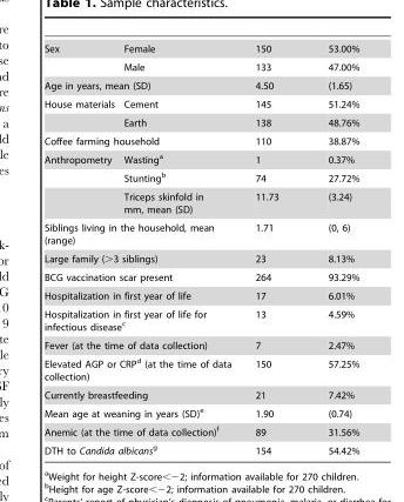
<table><tbody><tr><td rowspan="2">Sex</td><td>Female</td><td>150</td><td>53.00%</td></tr><tr><td>Male</td><td>133</td><td>47.00%</td></tr><tr><td colspan="2">Age in years, mean (SD)</td><td>4.50</td><td>(1.65)</td></tr><tr><td rowspan="2">House materials</td><td>Cement</td><td>145</td><td>51.24%</td></tr><tr><td>Earth</td><td>138</td><td>48.76%</td></tr><tr><td colspan="2">Coffee farming household</td><td>110</td><td>38.87%</td></tr><tr><td rowspan="3">Anthropometry</td><td>Wasting<sup>a</sup></td><td>1</td><td>0.37%</td></tr><tr><td>Stunting<sup>b</sup></td><td>74</td><td>27.72%</td></tr><tr><td>Triceps skinfold in mm, mean (SD)</td><td>11.73</td><td>(3.24)</td></tr><tr><td colspan="2">Siblings living in the household, mean (range)</td><td>1.71</td><td>(0, 6)</td></tr><tr><td colspan="2">Large family (&gt;3 siblings)</td><td>23</td><td>8.13%</td></tr><tr><td colspan="2">BCG vaccination scar present</td><td>264</td><td>93.29%</td></tr><tr><td colspan="2">Hospitalization in first year of life</td><td>17</td><td>6.01%</td></tr><tr><td colspan="2">Hospitalization in first year of life for infectious disease<sup>c</sup></td><td>13</td><td>4.59%</td></tr><tr><td colspan="2">Fever (at the time of data collection)</td><td>7</td><td>2.47%</td></tr><tr><td colspan="2">Elevated AGP or CRP<sup>d</sup> (at the time of data collection)</td><td>150</td><td>57.25%</td></tr><tr><td colspan="2">Currently breastfeeding</td><td>21</td><td>7.42%</td></tr><tr><td colspan="2">Mean age at weaning in years (SD)<sup>e</sup></td><td>1.90</td><td>(0.74)</td></tr><tr><td colspan="2">Anemic (at the time of data collection)<sup>f</sup></td><td>89</td><td>31.56%</td></tr><tr><td colspan="2">DTH to Candida albicansg</td><td>154</td><td>54.42%</td></tr></tbody></table>